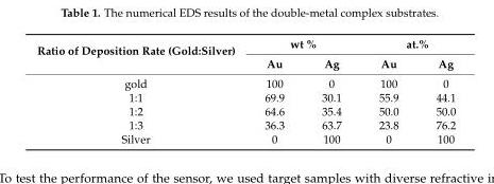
<table><thead><tr><td rowspan="2">Ratio of Deposition Rate (Gold:Silver)</td><td colspan="2">wt %</td><td colspan="2">at.%</td></tr><tr><td>Au</td><td>Ag</td><td>Au</td><td>Ag</td></tr></thead><tbody><tr><td>gold</td><td>100</td><td>0</td><td>100</td><td>0</td></tr><tr><td>1:1</td><td>69.9</td><td>30.1</td><td>55.9</td><td>44.1</td></tr><tr><td>1:2</td><td>64.6</td><td>35.4</td><td>50.0</td><td>50.0</td></tr><tr><td>1:3</td><td>36.3</td><td>63.7</td><td>23.8</td><td>76.2</td></tr><tr><td>Silver</td><td>0</td><td>100</td><td>0</td><td>100</td></tr></tbody></table>